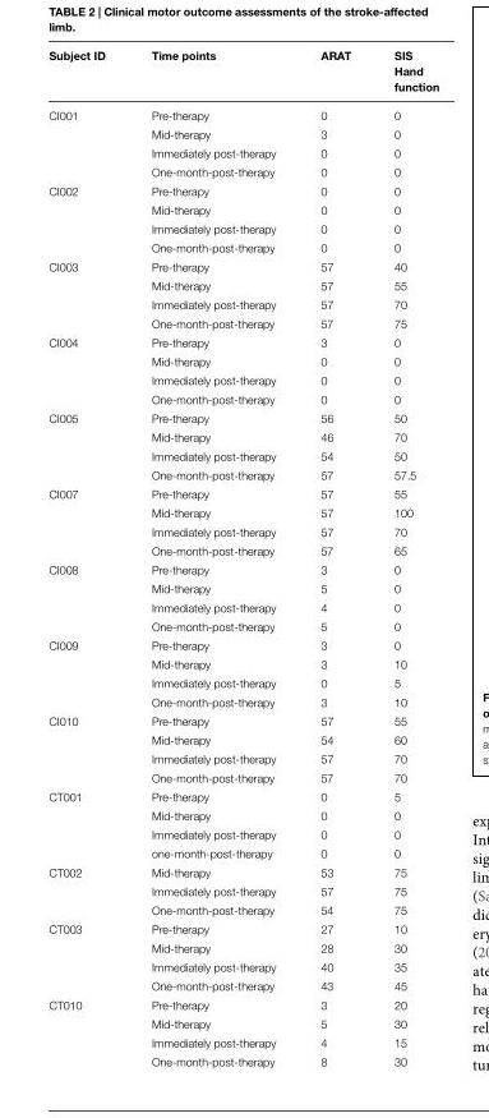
<table><thead><tr><td>Subject ID</td><td>Time points</td><td>ARAT</td><td>SIS Hand function</td></tr></thead><tbody><tr><td rowspan="4">CI001</td><td>Pre-therapy</td><td>0</td><td>0</td></tr><tr><td>Mid-therapy</td><td>3</td><td>0</td></tr><tr><td>Immediately post-therapy</td><td>0</td><td>0</td></tr><tr><td>One-month-post-therapy</td><td>0</td><td>0</td></tr><tr><td rowspan="4">CI002</td><td>Pre-therapy</td><td>0</td><td>0</td></tr><tr><td>Mid-therapy</td><td>0</td><td>0</td></tr><tr><td>Immediately post-therapy</td><td>0</td><td>0</td></tr><tr><td>One-month-post-therapy</td><td>0</td><td>0</td></tr><tr><td rowspan="4">CI003</td><td>Pre-therapy</td><td>57</td><td>40</td></tr><tr><td>Mid-therapy</td><td>57</td><td>55</td></tr><tr><td>Immediately post-therapy</td><td>57</td><td>70</td></tr><tr><td>One-month-post-therapy</td><td>57</td><td>75</td></tr><tr><td rowspan="4">CI004</td><td>Pre-therapy</td><td>3</td><td>0</td></tr><tr><td>Mid-therapy</td><td>0</td><td>0</td></tr><tr><td>Immediately post-therapy</td><td>0</td><td>0</td></tr><tr><td>One-month-post-therapy</td><td>0</td><td>0</td></tr><tr><td rowspan="4">CI005</td><td>Pre-therapy</td><td>56</td><td>50</td></tr><tr><td>Mid-therapy</td><td>46</td><td>70</td></tr><tr><td>Immediately post-therapy</td><td>54</td><td>50</td></tr><tr><td>One-month-post-therapy</td><td>57</td><td>57.5</td></tr><tr><td rowspan="4">CI007</td><td>Pre-therapy</td><td>57</td><td>55</td></tr><tr><td>Mid-therapy</td><td>57</td><td>100</td></tr><tr><td>Immediately post-therapy</td><td>57</td><td>70</td></tr><tr><td>One-month-post-therapy</td><td>57</td><td>65</td></tr><tr><td rowspan="4">CI008</td><td>Pre-therapy</td><td>3</td><td>0</td></tr><tr><td>Mid-therapy</td><td>5</td><td>0</td></tr><tr><td>Immediately post-therapy</td><td>4</td><td>0</td></tr><tr><td>One-month-post-therapy</td><td>5</td><td>0</td></tr><tr><td rowspan="4">CI009</td><td>Pre-therapy</td><td>3</td><td>0</td></tr><tr><td>Mid-therapy</td><td>3</td><td>10</td></tr><tr><td>Immediately post-therapy</td><td>0</td><td>5</td></tr><tr><td>One-month-post-therapy</td><td>3</td><td>10</td></tr><tr><td rowspan="4">CI010</td><td>Pre-therapy</td><td>57</td><td>55</td></tr><tr><td>Mid-therapy</td><td>54</td><td>60</td></tr><tr><td>Immediately post-therapy</td><td>57</td><td>70</td></tr><tr><td>One-month-post-therapy</td><td>57</td><td>70</td></tr><tr><td rowspan="4">CT001</td><td>Pre-therapy</td><td>0</td><td>5</td></tr><tr><td>Mid-therapy</td><td>0</td><td>0</td></tr><tr><td>Immediately post-therapy</td><td>0</td><td>0</td></tr><tr><td>one-month-post-therapy</td><td>0</td><td>0</td></tr><tr><td rowspan="3">CT002</td><td>Mid-therapy</td><td>53</td><td>75</td></tr><tr><td>Immediately post-therapy</td><td>57</td><td>75</td></tr><tr><td>One-month-post-therapy</td><td>54</td><td>75</td></tr><tr><td rowspan="4">CT003</td><td>Pre-therapy</td><td>27</td><td>10</td></tr><tr><td>Mid-therapy</td><td>28</td><td>30</td></tr><tr><td>Immediately post-therapy</td><td>40</td><td>35</td></tr><tr><td>One-month-post-therapy</td><td>43</td><td>45</td></tr><tr><td rowspan="4">CT010</td><td>Pre-therapy</td><td>3</td><td>20</td></tr><tr><td>Mid-therapy</td><td>5</td><td>30</td></tr><tr><td>Immediately post-therapy</td><td>4</td><td>15</td></tr><tr><td>One-month-post-therapy</td><td>8</td><td>30</td></tr></tbody></table>